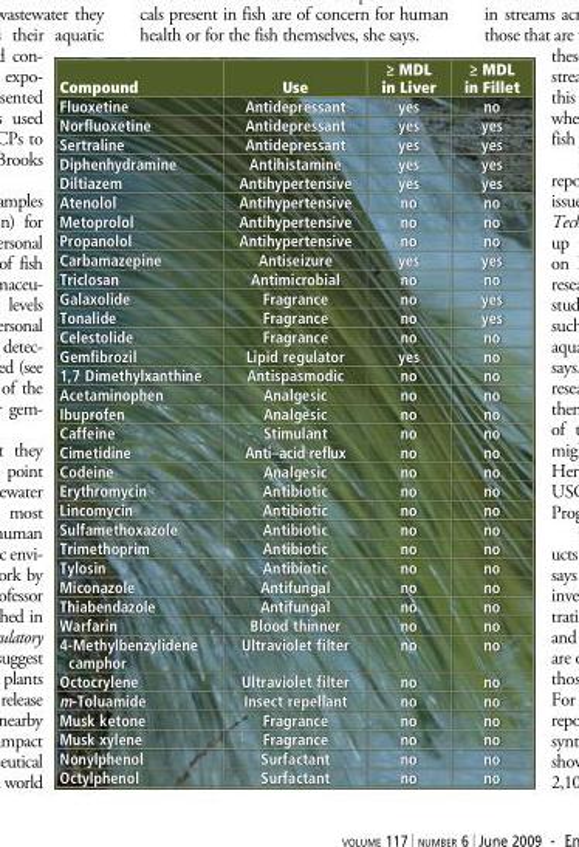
<table><thead><tr><td>Compound</td><td>Use</td><td>≥ MDL in Liver</td><td>≥ MDL in Fillet</td></tr></thead><tbody><tr><td>Fluoxetine</td><td>Antidepressant</td><td>yes</td><td>no</td></tr><tr><td>Norfluoxetine</td><td>Antidepressant</td><td>yes</td><td>yes</td></tr><tr><td>Sertraline</td><td>Antidepressant</td><td>yes</td><td>yes</td></tr><tr><td>Diphenhydramine</td><td>Antihistamine</td><td>yes</td><td>yes</td></tr><tr><td>Diltiazem</td><td>Antihypertensive</td><td>yes</td><td>yes</td></tr><tr><td>Atenolol</td><td>Antihypertensive</td><td>no</td><td>no</td></tr><tr><td>Metoprolol</td><td>Antihypertensive</td><td>no</td><td>no</td></tr><tr><td>Propanolol</td><td>Antihypertensive</td><td>no</td><td>no</td></tr><tr><td>Carbamazepine</td><td>Antiseizure</td><td>yes</td><td>yes</td></tr><tr><td>Triclosan</td><td>Antimicrobial</td><td>no</td><td>no</td></tr><tr><td>Galaxolide</td><td>Fragrance</td><td>no</td><td>yes</td></tr><tr><td>Tonalide</td><td>Fragrance</td><td>no</td><td>yes</td></tr><tr><td>Celestolide</td><td>Fragrance</td><td>no</td><td>no</td></tr><tr><td>Gemfibrozil</td><td>Lipid regulator</td><td>yes</td><td>no</td></tr><tr><td>1,7 Dimethylxanthine</td><td>Antispasmodic</td><td>no</td><td>no</td></tr><tr><td>Acetaminophen</td><td>Analgesic</td><td>no</td><td>no</td></tr><tr><td>Ibuprofen</td><td>Analgesic</td><td>no</td><td>no</td></tr><tr><td>Caffeine</td><td>Stimulant</td><td>no</td><td>no</td></tr><tr><td>Cimetidine</td><td>Anti–acid reflux</td><td>no</td><td>no</td></tr><tr><td>Codeine</td><td>Analgesic</td><td>no</td><td>no</td></tr><tr><td>Erythromycin</td><td>Antibiotic</td><td>no</td><td>no</td></tr><tr><td>Lincomycin</td><td>Antibiotic</td><td>no</td><td>no</td></tr><tr><td>Sulfamethoxazole</td><td>Antibiotic</td><td>no</td><td>no</td></tr><tr><td>Trimethoprim</td><td>Antibiotic</td><td>no</td><td>no</td></tr><tr><td>Tylosin</td><td>Antibiotic</td><td>no</td><td>no</td></tr><tr><td>Miconazole</td><td>Antifungal</td><td>no</td><td>no</td></tr><tr><td>Thiabendazole</td><td>Antifungal</td><td>no</td><td>no</td></tr><tr><td>Warfarin</td><td>Blood thinner</td><td>no</td><td>no</td></tr><tr><td>4-Methylbenzylidene camphor</td><td>Ultraviolet filter</td><td>no</td><td>no</td></tr><tr><td>Octocrylene</td><td>Ultraviolet filter</td><td>no</td><td>no</td></tr><tr><td>m-Toluamide</td><td>Insect repellant</td><td>no</td><td>no</td></tr><tr><td>Musk ketone</td><td>Fragrance</td><td>no</td><td>no</td></tr><tr><td>Musk xylene</td><td>Fragrance</td><td>no</td><td>no</td></tr><tr><td>Nonylphenol</td><td>Surfactant</td><td>no</td><td>no</td></tr><tr><td>Octylphenol</td><td>Surfactant</td><td>no</td><td>no</td></tr></tbody></table>